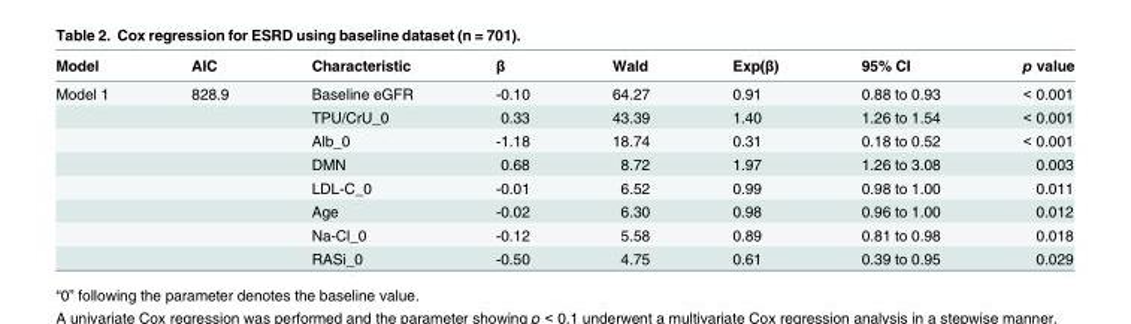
<table><thead><tr><td>Model</td><td>AIC</td><td>Characteristic</td><td>β</td><td>Wald</td><td>Exp(β)</td><td>95% CI</td><td>p value</td></tr></thead><tbody><tr><td rowspan="8">Model 1</td><td>828.9</td><td>Baseline eGFR</td><td>-0.10</td><td>64.27</td><td>0.91</td><td>0.88 to 0.93</td><td>&lt; 0.001</td></tr><tr><td></td><td>TPU/CrU_0</td><td>0.33</td><td>43.39</td><td>1.40</td><td>1.26 to 1.54</td><td>&lt; 0.001</td></tr><tr><td></td><td>Alb_0</td><td>-1.18</td><td>18.74</td><td>0.31</td><td>0.18 to 0.52</td><td>&lt; 0.001</td></tr><tr><td></td><td>DMN</td><td>0.68</td><td>8.72</td><td>1.97</td><td>1.26 to 3.08</td><td>0.003</td></tr><tr><td></td><td>LDL-C_0</td><td>-0.01</td><td>6.52</td><td>0.99</td><td>0.98 to 1.00</td><td>0.011</td></tr><tr><td></td><td>Age</td><td>-0.02</td><td>6.30</td><td>0.98</td><td>0.96 to 1.00</td><td>0.012</td></tr><tr><td></td><td>Na-Cl_0</td><td>-0.12</td><td>5.58</td><td>0.89</td><td>0.81 to 0.98</td><td>0.018</td></tr><tr><td></td><td>RASi_0</td><td>-0.50</td><td>4.75</td><td>0.61</td><td>0.39 to 0.95</td><td>0.029</td></tr></tbody></table>